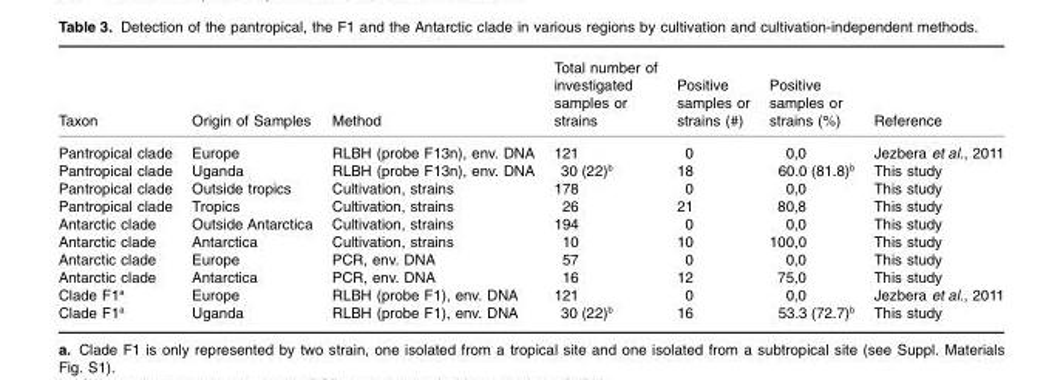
<table><thead><tr><td>Taxon</td><td>Origin of Samples</td><td>Method</td><td>Total number of investigated samples or strains</td><td>Positive samples or strains (#)</td><td>Positive samples or strains (%)</td><td>Reference</td></tr></thead><tbody><tr><td>Pantropical clade</td><td>Europe</td><td>RLBH (probe F13n), env. DNA</td><td>121</td><td>0</td><td>0,0</td><td>Jezbera et al., 2011</td></tr><tr><td>Pantropical clade</td><td>Uganda</td><td>RLBH (probe F13n), env. DNA</td><td>30 (22)<sup>b</sup></td><td>18</td><td>60.0 (81.8)<sup>b</sup></td><td>This study</td></tr><tr><td>Pantropical clade</td><td>Outside tropics</td><td>Cultivation, strains</td><td>178</td><td>0</td><td>0,0</td><td>This study</td></tr><tr><td>Pantropical clade</td><td>Tropics</td><td>Cultivation, strains</td><td>26</td><td>21</td><td>80,8</td><td>This study</td></tr><tr><td>Antarctic clade</td><td>Outside Antarctica</td><td>Cultivation, strains</td><td>194</td><td>0</td><td>0,0</td><td>This study</td></tr><tr><td>Antarctic clade</td><td>Antarctica</td><td>Cultivation, strains</td><td>10</td><td>10</td><td>100,0</td><td>This study</td></tr><tr><td>Antarctic clade</td><td>Europe</td><td>PCR, env. DNA</td><td>57</td><td>0</td><td>0,0</td><td>This study</td></tr><tr><td>Antarctic clade</td><td>Antarctica</td><td>PCR, env. DNA</td><td>16</td><td>12</td><td>75,0</td><td>This study</td></tr><tr><td>Clade F1<sup>a</sup></td><td>Europe</td><td>RLBH (probe F1), env. DNA</td><td>121</td><td>0</td><td>0,0</td><td>Jezbera et al., 2011</td></tr><tr><td>Clade F1<sup>a</sup></td><td>Uganda</td><td>RLBH (probe F1), env. DNA</td><td>30 (22)<sup>b</sup></td><td>16</td><td>53.3 (72.7)<sup>b</sup></td><td>This study</td></tr></tbody></table>